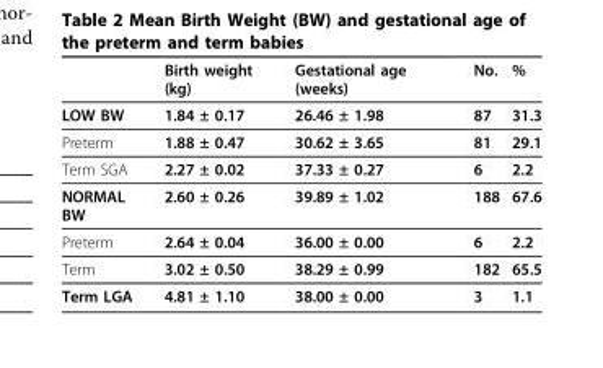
<table><thead><tr><td></td><td>Birth weight (kg)</td><td>Gestational age (weeks)</td><td>No.</td><td>%</td></tr></thead><tbody><tr><td>LOW BW</td><td>1.84 ± 0.17</td><td>26.46 ± 1.98</td><td>87</td><td>31.3</td></tr><tr><td>Preterm</td><td>1.88 ± 0.47</td><td>30.62 ± 3.65</td><td>81</td><td>29.1</td></tr><tr><td>Term SGA</td><td>2.27 ± 0.02</td><td>37.33 ± 0.27</td><td>6</td><td>2.2</td></tr><tr><td>NORMAL BW</td><td>2.60 ± 0.26</td><td>39.89 ± 1.02</td><td>188</td><td>67.6</td></tr><tr><td>Preterm</td><td>2.64 ± 0.04</td><td>36.00 ± 0.00</td><td>6</td><td>2.2</td></tr><tr><td>Term</td><td>3.02 ± 0.50</td><td>38.29 ± 0.99</td><td>182</td><td>65.5</td></tr><tr><td>Term LGA</td><td>4.81 ± 1.10</td><td>38.00 ± 0.00</td><td>3</td><td>1.1</td></tr></tbody></table>